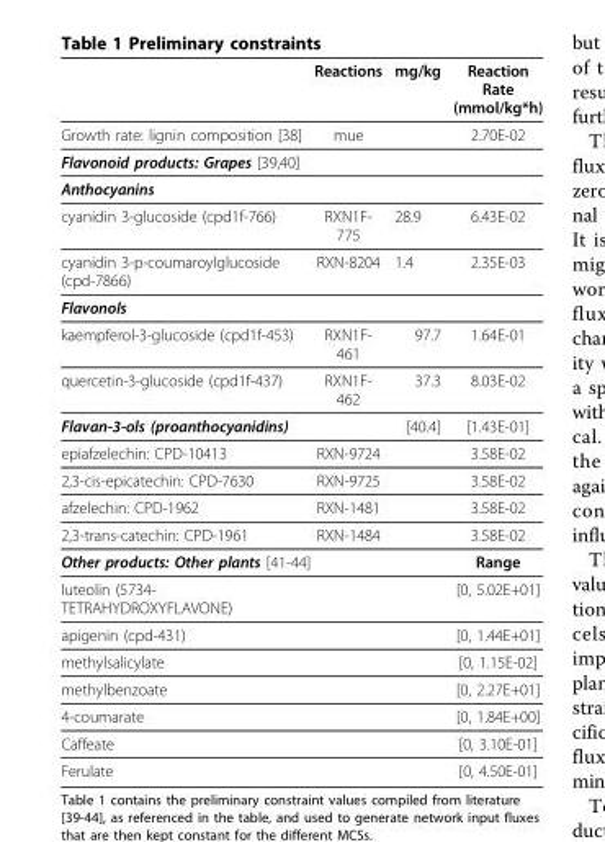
<table><thead><tr><td></td><td>Reactions</td><td>mg/kg</td><td>Reaction Rate (mmol/kg*h)</td></tr></thead><tbody><tr><td>Growth rate: lignin composition [38]</td><td>mue</td><td></td><td>2.70E-02</td></tr><tr><td colspan="4">Flavonoid products: Grapes [39,40]</td></tr><tr><td colspan="4">Anthocyanins</td></tr><tr><td>cyanidin 3-glucoside (cpd1f-766)</td><td>RXN1F- 775</td><td>28.9</td><td>6.43E-02</td></tr><tr><td>cyanidin 3-p-coumaroylglucoside (cpd-7866)</td><td>RXN-8204</td><td>1.4</td><td>2.35E-03</td></tr><tr><td colspan="4">Flavonols</td></tr><tr><td>kaempferol-3-glucoside (cpd1f-453)</td><td>RXN1F- 461</td><td>97.7</td><td>1.64E-01</td></tr><tr><td>quercetin-3-glucoside (cpd1f-437)</td><td>RXN1F- 462</td><td>37.3</td><td>8.03E-02</td></tr><tr><td colspan="2">Flavan-3-ols (proanthocyanidins)</td><td>[40.4]</td><td>[1.43E-01]</td></tr><tr><td>epiafzelechin: CPD-10413</td><td>RXN-9724</td><td></td><td>3.58E-02</td></tr><tr><td>2,3-cis-epicatechin: CPD-7630</td><td>RXN-9725</td><td></td><td>3.58E-02</td></tr><tr><td>afzelechin: CPD-1962</td><td>RXN-1481</td><td></td><td>3.58E-02</td></tr><tr><td>2,3-trans-catechin: CPD-1961</td><td>RXN-1484</td><td></td><td>3.58E-02</td></tr><tr><td colspan="3">Other products: Other plants [41-44]</td><td>Range</td></tr><tr><td>luteolin (5734- TETRAHYDROXYFLAVONE)</td><td></td><td></td><td>[0, 5.02E+01]</td></tr><tr><td>apigenin (cpd-431)</td><td></td><td></td><td>[0, 1.44E+01]</td></tr><tr><td>methylsalicylate</td><td></td><td></td><td>[0, 1.15E-02]</td></tr><tr><td>methylbenzoate</td><td></td><td></td><td>[0, 2.27E+01]</td></tr><tr><td>4-coumarate</td><td></td><td></td><td>[0, 1.84E+00]</td></tr><tr><td>Caffeate</td><td></td><td></td><td>[0, 3.10E-01]</td></tr><tr><td>Ferulate</td><td></td><td></td><td>[0, 4.50E-01]</td></tr></tbody></table>